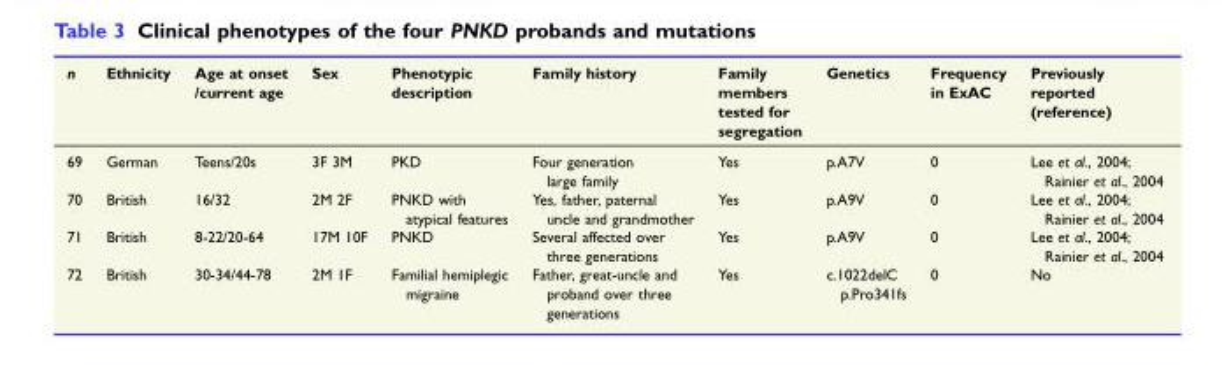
<table><thead><tr><td>n</td><td>Ethnicity</td><td>Age at onset /current age</td><td>Sex</td><td>Phenotypic description</td><td>Family history</td><td>Family members tested for segregation</td><td>Genetics</td><td>Frequency in ExAC</td><td>Previously reported (reference)</td></tr></thead><tbody><tr><td>69</td><td>German</td><td>Teens/20s</td><td>3F 3M</td><td>PKD</td><td>Four generation large family</td><td>Yes</td><td>p.A7V</td><td>0</td><td>Lee et al., 2004; Rainier et al., 2004</td></tr><tr><td>70</td><td>British</td><td>16/32</td><td>2M 2F</td><td>PNKD with atypical features</td><td>Yes, father, paternal uncle and grandmother</td><td>Yes</td><td>p.A9V</td><td>0</td><td>Lee et al., 2004; Rainier et al., 2004</td></tr><tr><td>71</td><td>British</td><td>8-22/20-64</td><td>17M 10F</td><td>PNKD</td><td>Several affected over three generations</td><td>Yes</td><td>p.A9V</td><td>0</td><td>Lee et al., 2004; Rainier et al., 2004</td></tr><tr><td>72</td><td>British</td><td>30-34/44-78</td><td>2M 1F</td><td>Familial hemiplegic migraine</td><td>Father, great-uncle and proband over three generations</td><td>Yes</td><td>c.1022delC p.Pro341fs</td><td>0</td><td>No</td></tr></tbody></table>